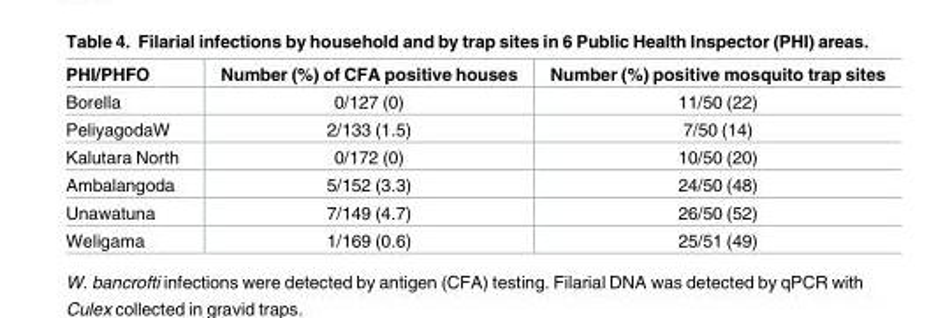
<table><thead><tr><td>PHI/PHFO</td><td>Number (%) of CFA positive houses</td><td>Number (%) positive mosquito trap sites</td></tr></thead><tbody><tr><td>Borella</td><td>0/127 (0)</td><td>11/50 (22)</td></tr><tr><td>PeliyagodaW</td><td>2/133 (1.5)</td><td>7/50 (14)</td></tr><tr><td>Kalutara North</td><td>0/172 (0)</td><td>10/50 (20)</td></tr><tr><td>Ambalangoda</td><td>5/152 (3.3)</td><td>24/50 (48)</td></tr><tr><td>Unawatuna</td><td>7/149 (4.7)</td><td>26/50 (52)</td></tr><tr><td>Weligama</td><td>1/169 (0.6)</td><td>25/51 (49)</td></tr></tbody></table>